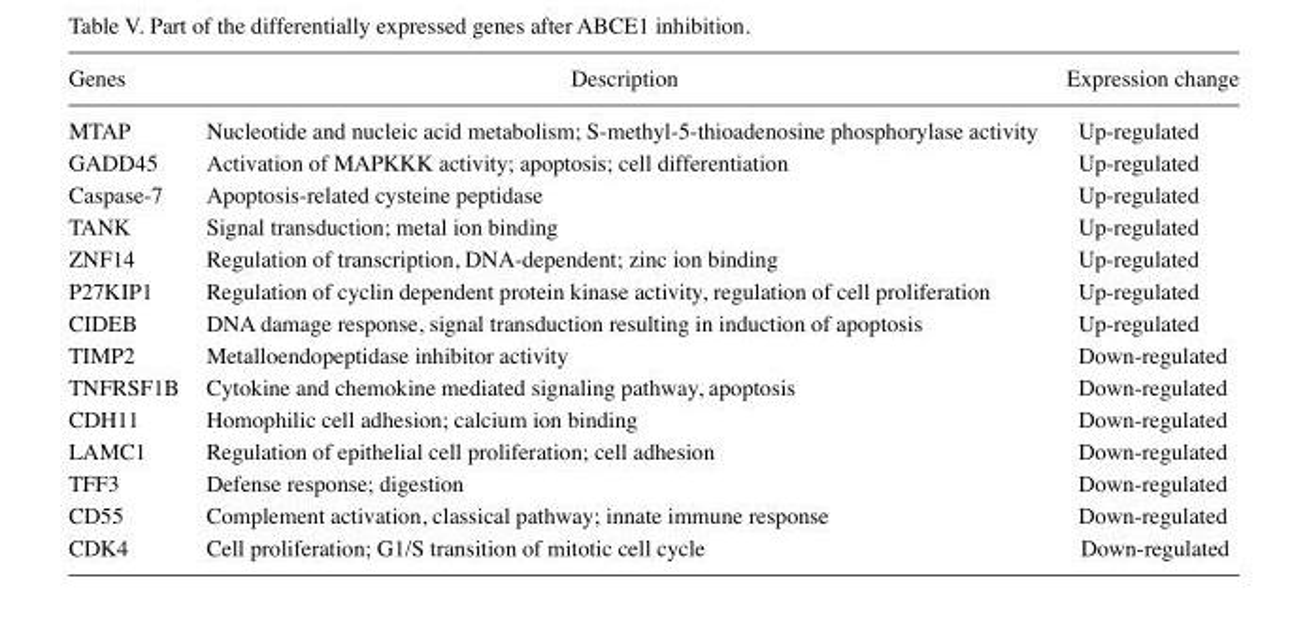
<table><thead><tr><td>Genes</td><td>Description</td><td>Expression change</td></tr></thead><tbody><tr><td>MTAP</td><td>Nucleotide and nucleic acid metabolism; S-methyl-5-thioadenosine phosphorylase activity</td><td>Up-regulated</td></tr><tr><td>GADD45</td><td>Activation of MAPKKK activity; apoptosis; cell differentiation</td><td>Up-regulated</td></tr><tr><td>Caspase-7</td><td>Apoptosis-related cysteine peptidase</td><td>Up-regulated</td></tr><tr><td>TANK</td><td>Signal transduction; metal ion binding</td><td>Up-regulated</td></tr><tr><td>ZNF14</td><td>Regulation of transcription, DNA-dependent; zinc ion binding</td><td>Up-regulated</td></tr><tr><td>P27KIP1</td><td>Regulation of cyclin dependent protein kinase activity, regulation of cell proliferation</td><td>Up-regulated</td></tr><tr><td>CIDEB</td><td>DNA damage response, signal transduction resulting in induction of apoptosis</td><td>Up-regulated</td></tr><tr><td>TIMP2</td><td>Metalloendopeptidase inhibitor activity</td><td>Down-regulated</td></tr><tr><td>TNFRSF1B</td><td>Cytokine and chemokine mediated signaling pathway, apoptosis</td><td>Down-regulated</td></tr><tr><td>CDH11</td><td>Homophilic cell adhesion; calcium ion binding</td><td>Down-regulated</td></tr><tr><td>LAMC1</td><td>Regulation of epithelial cell proliferation; cell adhesion</td><td>Down-regulated</td></tr><tr><td>TFF3</td><td>Defense response; digestion</td><td>Down-regulated</td></tr><tr><td>CD55</td><td>Complement activation, classical pathway; innate immune response</td><td>Down-regulated</td></tr><tr><td>CDK4</td><td>Cell proliferation; G1/S transition of mitotic cell cycle</td><td>Down-regulated</td></tr></tbody></table>